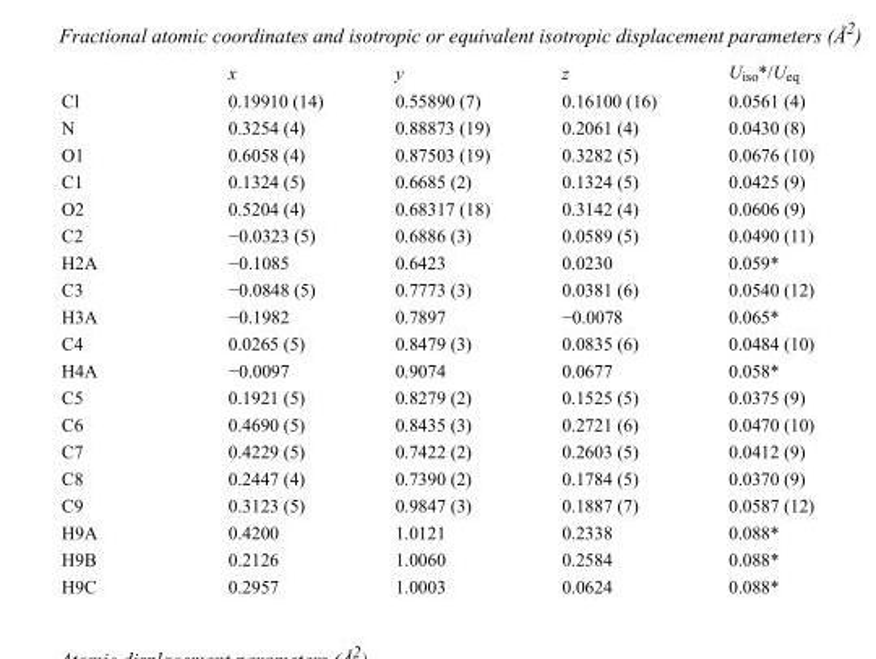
<table><thead><tr><td></td><td>x</td><td>y</td><td>z</td><td>U<sub>iso</sub>*/U<sub>eq</sub></td></tr></thead><tbody><tr><td>Cl</td><td>0.19910 (14)</td><td>0.55890 (7)</td><td>0.16100 (16)</td><td>0.0561 (4)</td></tr><tr><td>N</td><td>0.3254 (4)</td><td>0.88873 (19)</td><td>0.2061 (4)</td><td>0.0430 (8)</td></tr><tr><td>O1</td><td>0.6058 (4)</td><td>0.87503 (19)</td><td>0.3282 (5)</td><td>0.0676 (10)</td></tr><tr><td>C1</td><td>0.1324 (5)</td><td>0.6685 (2)</td><td>0.1324 (5)</td><td>0.0425 (9)</td></tr><tr><td>O2</td><td>0.5204 (4)</td><td>0.68317 (18)</td><td>0.3142 (4)</td><td>0.0606 (9)</td></tr><tr><td>C2</td><td>−0.0323 (5)</td><td>0.6886 (3)</td><td>0.0589 (5)</td><td>0.0490 (11)</td></tr><tr><td>H2A</td><td>−0.1085</td><td>0.6423</td><td>0.0230</td><td>0.059*</td></tr><tr><td>C3</td><td>−0.0848 (5)</td><td>0.7773 (3)</td><td>0.0381 (6)</td><td>0.0540 (12)</td></tr><tr><td>H3A</td><td>−0.1982</td><td>0.7897</td><td>−0.0078</td><td>0.065*</td></tr><tr><td>C4</td><td>0.0265 (5)</td><td>0.8479 (3)</td><td>0.0835 (6)</td><td>0.0484 (10)</td></tr><tr><td>H4A</td><td>−0.0097</td><td>0.9074</td><td>0.0677</td><td>0.058*</td></tr><tr><td>C5</td><td>0.1921 (5)</td><td>0.8279 (2)</td><td>0.1525 (5)</td><td>0.0375 (9)</td></tr><tr><td>C6</td><td>0.4690 (5)</td><td>0.8435 (3)</td><td>0.2721 (6)</td><td>0.0470 (10)</td></tr><tr><td>C7</td><td>0.4229 (5)</td><td>0.7422 (2)</td><td>0.2603 (5)</td><td>0.0412 (9)</td></tr><tr><td>C8</td><td>0.2447 (4)</td><td>0.7390 (2)</td><td>0.1784 (5)</td><td>0.0370 (9)</td></tr><tr><td>C9</td><td>0.3123 (5)</td><td>0.9847 (3)</td><td>0.1887 (7)</td><td>0.0587 (12)</td></tr><tr><td>H9A</td><td>0.4200</td><td>1.0121</td><td>0.2338</td><td>0.088*</td></tr><tr><td>H9B</td><td>0.2126</td><td>1.0060</td><td>0.2584</td><td>0.088*</td></tr><tr><td>H9C</td><td>0.2957</td><td>1.0003</td><td>0.0624</td><td>0.088*</td></tr></tbody></table>